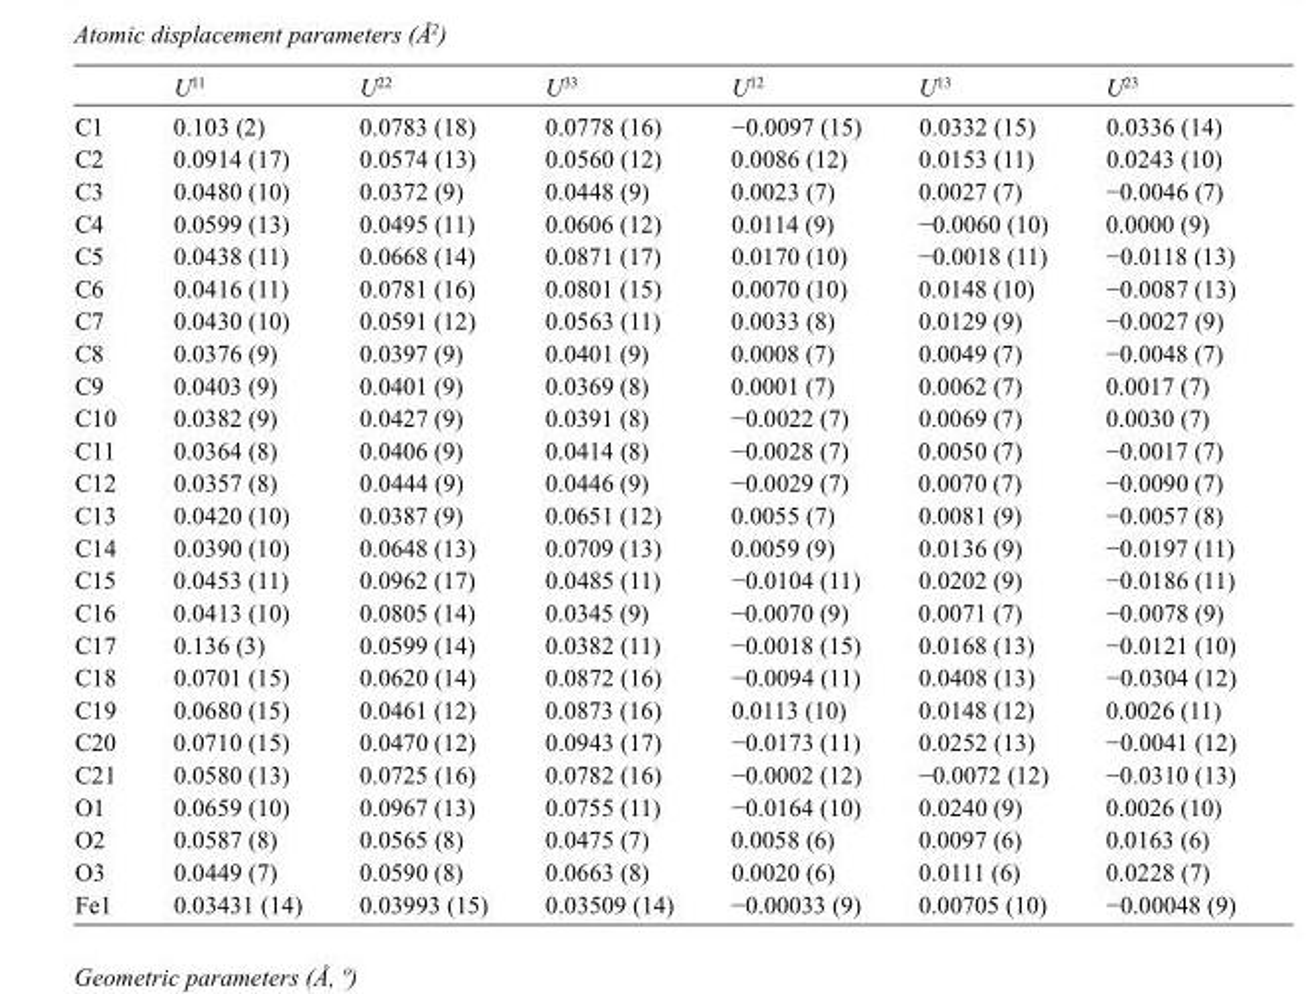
<table><thead><tr><td></td><td>U<sup>11</sup></td><td>U<sup>22</sup></td><td>U<sup>33</sup></td><td>U<sup>12</sup></td><td>U<sup>13</sup></td><td>U<sup>23</sup></td></tr></thead><tbody><tr><td>C1</td><td>0.103 (2)</td><td>0.0783 (18)</td><td>0.0778 (16)</td><td>−0.0097 (15)</td><td>0.0332 (15)</td><td>0.0336 (14)</td></tr><tr><td>C2</td><td>0.0914 (17)</td><td>0.0574 (13)</td><td>0.0560 (12)</td><td>0.0086 (12)</td><td>0.0153 (11)</td><td>0.0243 (10)</td></tr><tr><td>C3</td><td>0.0480 (10)</td><td>0.0372 (9)</td><td>0.0448 (9)</td><td>0.0023 (7)</td><td>0.0027 (7)</td><td>−0.0046 (7)</td></tr><tr><td>C4</td><td>0.0599 (13)</td><td>0.0495 (11)</td><td>0.0606 (12)</td><td>0.0114 (9)</td><td>−0.0060 (10)</td><td>0.0000 (9)</td></tr><tr><td>C5</td><td>0.0438 (11)</td><td>0.0668 (14)</td><td>0.0871 (17)</td><td>0.0170 (10)</td><td>−0.0018 (11)</td><td>−0.0118 (13)</td></tr><tr><td>C6</td><td>0.0416 (11)</td><td>0.0781 (16)</td><td>0.0801 (15)</td><td>0.0070 (10)</td><td>0.0148 (10)</td><td>−0.0087 (13)</td></tr><tr><td>C7</td><td>0.0430 (10)</td><td>0.0591 (12)</td><td>0.0563 (11)</td><td>0.0033 (8)</td><td>0.0129 (9)</td><td>−0.0027 (9)</td></tr><tr><td>C8</td><td>0.0376 (9)</td><td>0.0397 (9)</td><td>0.0401 (9)</td><td>0.0008 (7)</td><td>0.0049 (7)</td><td>−0.0048 (7)</td></tr><tr><td>C9</td><td>0.0403 (9)</td><td>0.0401 (9)</td><td>0.0369 (8)</td><td>0.0001 (7)</td><td>0.0062 (7)</td><td>0.0017 (7)</td></tr><tr><td>C10</td><td>0.0382 (9)</td><td>0.0427 (9)</td><td>0.0391 (8)</td><td>−0.0022 (7)</td><td>0.0069 (7)</td><td>0.0030 (7)</td></tr><tr><td>C11</td><td>0.0364 (8)</td><td>0.0406 (9)</td><td>0.0414 (8)</td><td>−0.0028 (7)</td><td>0.0050 (7)</td><td>−0.0017 (7)</td></tr><tr><td>C12</td><td>0.0357 (8)</td><td>0.0444 (9)</td><td>0.0446 (9)</td><td>−0.0029 (7)</td><td>0.0070 (7)</td><td>−0.0090 (7)</td></tr><tr><td>C13</td><td>0.0420 (10)</td><td>0.0387 (9)</td><td>0.0651 (12)</td><td>0.0055 (7)</td><td>0.0081 (9)</td><td>−0.0057 (8)</td></tr><tr><td>C14</td><td>0.0390 (10)</td><td>0.0648 (13)</td><td>0.0709 (13)</td><td>0.0059 (9)</td><td>0.0136 (9)</td><td>−0.0197 (11)</td></tr><tr><td>C15</td><td>0.0453 (11)</td><td>0.0962 (17)</td><td>0.0485 (11)</td><td>−0.0104 (11)</td><td>0.0202 (9)</td><td>−0.0186 (11)</td></tr><tr><td>C16</td><td>0.0413 (10)</td><td>0.0805 (14)</td><td>0.0345 (9)</td><td>−0.0070 (9)</td><td>0.0071 (7)</td><td>−0.0078 (9)</td></tr><tr><td>C17</td><td>0.136 (3)</td><td>0.0599 (14)</td><td>0.0382 (11)</td><td>−0.0018 (15)</td><td>0.0168 (13)</td><td>−0.0121 (10)</td></tr><tr><td>C18</td><td>0.0701 (15)</td><td>0.0620 (14)</td><td>0.0872 (16)</td><td>−0.0094 (11)</td><td>0.0408 (13)</td><td>−0.0304 (12)</td></tr><tr><td>C19</td><td>0.0680 (15)</td><td>0.0461 (12)</td><td>0.0873 (16)</td><td>0.0113 (10)</td><td>0.0148 (12)</td><td>0.0026 (11)</td></tr><tr><td>C20</td><td>0.0710 (15)</td><td>0.0470 (12)</td><td>0.0943 (17)</td><td>−0.0173 (11)</td><td>0.0252 (13)</td><td>−0.0041 (12)</td></tr><tr><td>C21</td><td>0.0580 (13)</td><td>0.0725 (16)</td><td>0.0782 (16)</td><td>−0.0002 (12)</td><td>−0.0072 (12)</td><td>−0.0310 (13)</td></tr><tr><td>O1</td><td>0.0659 (10)</td><td>0.0967 (13)</td><td>0.0755 (11)</td><td>−0.0164 (10)</td><td>0.0240 (9)</td><td>0.0026 (10)</td></tr><tr><td>O2</td><td>0.0587 (8)</td><td>0.0565 (8)</td><td>0.0475 (7)</td><td>0.0058 (6)</td><td>0.0097 (6)</td><td>0.0163 (6)</td></tr><tr><td>O3</td><td>0.0449 (7)</td><td>0.0590 (8)</td><td>0.0663 (8)</td><td>0.0020 (6)</td><td>0.0111 (6)</td><td>0.0228 (7)</td></tr><tr><td>Fe1</td><td>0.03431 (14)</td><td>0.03993 (15)</td><td>0.03509 (14)</td><td>−0.00033 (9)</td><td>0.00705 (10)</td><td>−0.00048 (9)</td></tr></tbody></table>